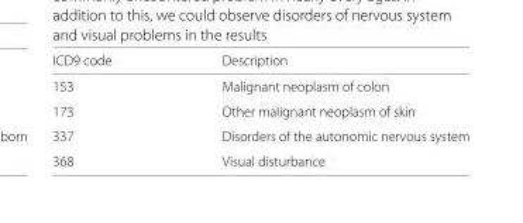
<table><thead><tr><td>ICD9 code</td><td>Description</td></tr></thead><tbody><tr><td>153</td><td>Malignant neoplasm of colon</td></tr><tr><td>173</td><td>Other malignant neoplasm of skin</td></tr><tr><td>337</td><td>Disorders of the autonomic nervous system</td></tr><tr><td>368</td><td>Visual disturbance</td></tr></tbody></table>